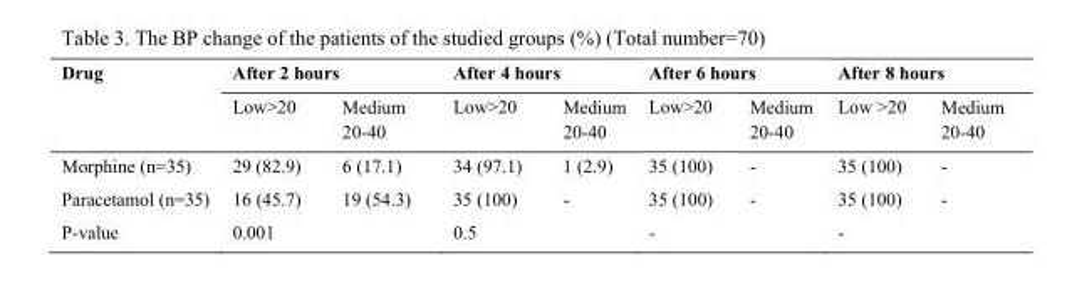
<table><thead><tr><td rowspan="2">Drug</td><td colspan="2">After 2 hours</td><td colspan="2">After 4 hours</td><td colspan="2">After 6 hours</td><td colspan="2">After 8 hours</td></tr><tr><td>Low&gt;20</td><td>Medium 20-40</td><td>Low&gt;20</td><td>Medium 20-40</td><td>Low&gt;20</td><td>Medium 20-40</td><td>Low &gt;20</td><td>Medium 20-40</td></tr></thead><tbody><tr><td>Morphine (n=35)</td><td>29 (82.9)</td><td>6 (17.1)</td><td>34 (97.1)</td><td>1 (2.9)</td><td>35 (100)</td><td>-</td><td>35 (100)</td><td>-</td></tr><tr><td>Paracetamol (n=35)</td><td>16 (45.7)</td><td>19 (54.3)</td><td>35 (100)</td><td>-</td><td>35 (100)</td><td>-</td><td>35 (100)</td><td>-</td></tr><tr><td>P-value</td><td colspan="2">0.001</td><td colspan="2">0.5</td><td colspan="2">-</td><td colspan="2">-</td></tr></tbody></table>